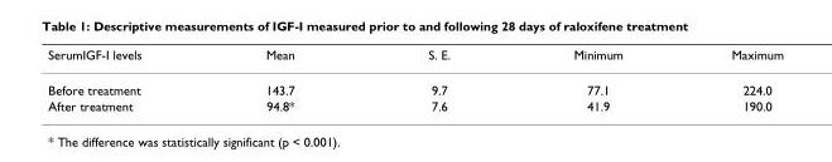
<table><thead><tr><td>SerumIGF-I levels</td><td>Mean</td><td>S. E.</td><td>Minimum</td><td>Maximum</td></tr></thead><tbody><tr><td>Before treatment</td><td>143.7</td><td>9.7</td><td>77.1</td><td>224.0</td></tr><tr><td>After treatment</td><td>94.8*</td><td>7.6</td><td>41.9</td><td>190.0</td></tr></tbody></table>